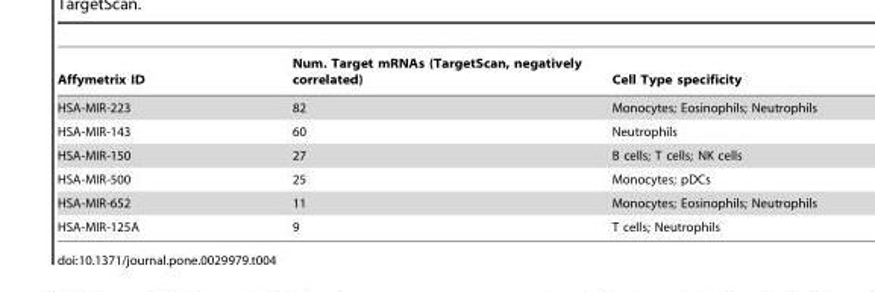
<table><thead><tr><td>Affymetrix ID</td><td>Num. Target mRNAs (TargetScan, negatively correlated)</td><td>Cell Type specificity</td></tr></thead><tbody><tr><td>HSA-MIR-223</td><td>82</td><td>Monocytes; Eosinophils; Neutrophils</td></tr><tr><td>HSA-MIR-143</td><td>60</td><td>Neutrophils</td></tr><tr><td>HSA-MIR-150</td><td>27</td><td>B cells; T cells; NK cells</td></tr><tr><td>HSA-MIR-500</td><td>25</td><td>Monocytes; pDCs</td></tr><tr><td>HSA-MIR-652</td><td>11</td><td>Monocytes; Eosinophils; Neutrophils</td></tr><tr><td>HSA-MIR-125A</td><td>9</td><td>T cells; Neutrophils</td></tr></tbody></table>